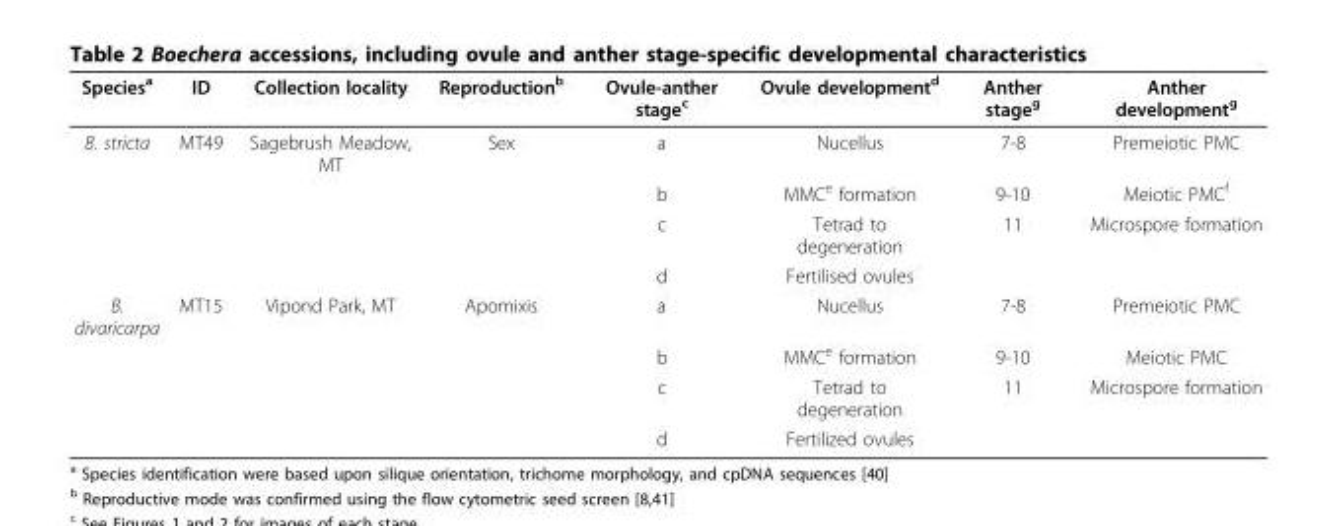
<table><thead><tr><td>Species<sup>a</sup></td><td>ID</td><td>Collection locality</td><td>Reproduction<sup>b</sup></td><td>Ovule-anther stage<sup>c</sup></td><td>Ovule development<sup>d</sup></td><td>Anther stage<sup>g</sup></td><td>Anther development<sup>g</sup></td></tr></thead><tbody><tr><td rowspan="4">B. stricta</td><td>MT49</td><td>Sagebrush Meadow, MT</td><td>Sex</td><td>a</td><td>Nucellus</td><td>7-8</td><td>Premeiotic PMC</td></tr><tr><td></td><td></td><td></td><td>b</td><td>MMC<sup>e</sup> formation</td><td>9-10</td><td>Meiotic PMC<sup>f</sup></td></tr><tr><td></td><td></td><td></td><td>c</td><td>Tetrad to degeneration</td><td>11</td><td>Microspore formation</td></tr><tr><td></td><td></td><td></td><td>d</td><td>Fertilised ovules</td><td></td><td></td></tr><tr><td rowspan="4">B. divaricarpa</td><td>MT15</td><td>Vipond Park, MT</td><td>Apomixis</td><td>a</td><td>Nucellus</td><td>7-8</td><td>Premeiotic PMC</td></tr><tr><td></td><td></td><td></td><td>b</td><td>MMC<sup>e</sup> formation</td><td>9-10</td><td>Meiotic PMC</td></tr><tr><td></td><td></td><td></td><td>c</td><td>Tetrad to degeneration</td><td>11</td><td>Microspore formation</td></tr><tr><td></td><td></td><td></td><td>d</td><td>Fertilized ovules</td><td></td><td></td></tr></tbody></table>